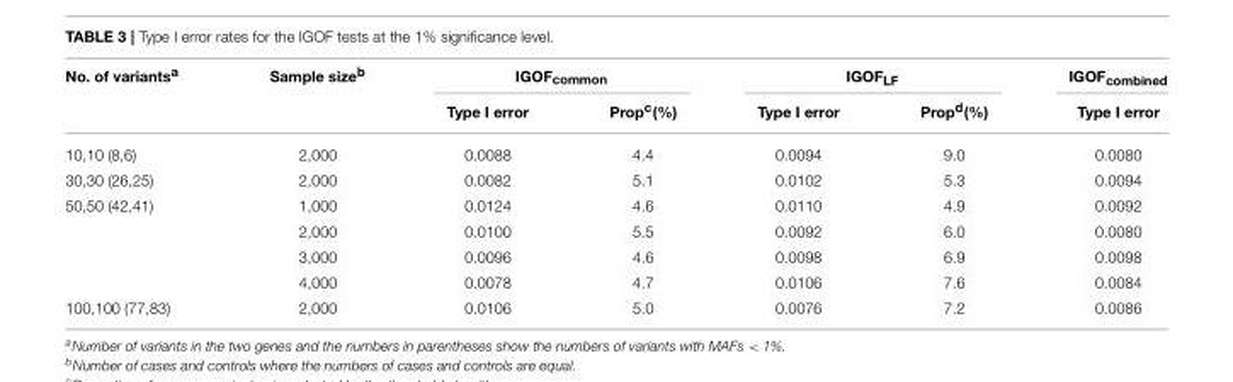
<table><thead><tr><td rowspan="2">No. of variants<sup>a</sup></td><td rowspan="2">Sample size<sup>b</sup></td><td colspan="2">IGOF<sub>common</sub></td><td colspan="2">IGOF<sub>LF</sub></td><td rowspan="2">IGOF<sub>combined</sub> Type I error</td></tr><tr><td>Type I error</td><td>Prop<sup>c</sup>(%)</td><td>Type I error</td><td>Prop<sup>d</sup>(%)</td></tr></thead><tbody><tr><td>10,10 (8,6)</td><td>2,000</td><td>0.0088</td><td>4.4</td><td>0.0094</td><td>9.0</td><td>0.0080</td></tr><tr><td>30,30 (26,25)</td><td>2,000</td><td>0.0082</td><td>5.1</td><td>0.0102</td><td>5.3</td><td>0.0094</td></tr><tr><td rowspan="4">50,50 (42,41)</td><td>1,000</td><td>0.0124</td><td>4.6</td><td>0.0110</td><td>4.9</td><td>0.0092</td></tr><tr><td>2,000</td><td>0.0100</td><td>5.5</td><td>0.0092</td><td>6.0</td><td>0.0080</td></tr><tr><td>3,000</td><td>0.0096</td><td>4.6</td><td>0.0098</td><td>6.9</td><td>0.0098</td></tr><tr><td>4,000</td><td>0.0078</td><td>4.7</td><td>0.0106</td><td>7.6</td><td>0.0084</td></tr><tr><td>100,100 (77,83)</td><td>2,000</td><td>0.0106</td><td>5.0</td><td>0.0076</td><td>7.2</td><td>0.0086</td></tr></tbody></table>